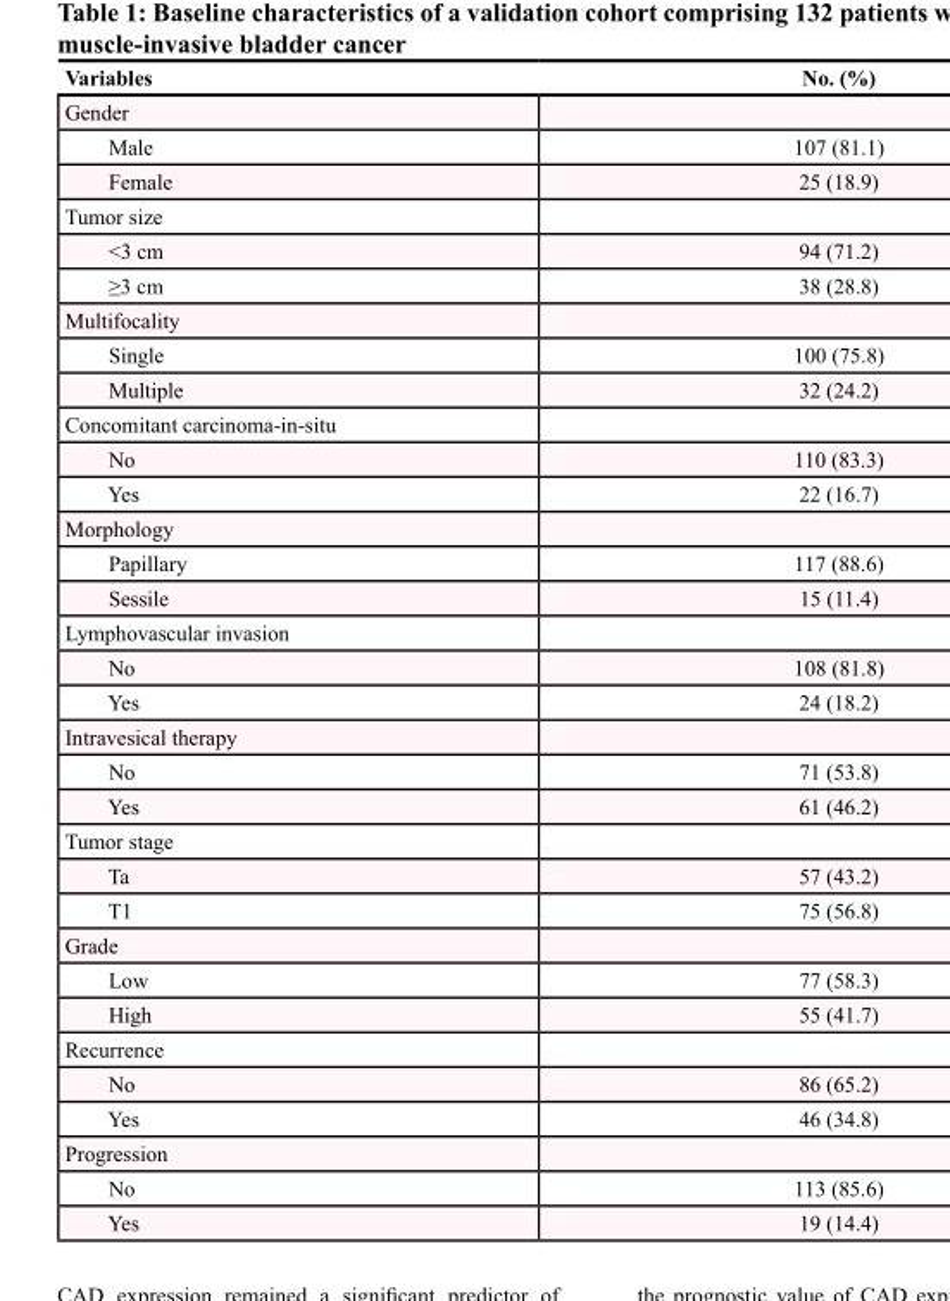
<table><thead><tr><td>Variables</td><td>No. (%)</td></tr></thead><tbody><tr><td colspan="2">Gender</td></tr><tr><td>Male</td><td>107 (81.1)</td></tr><tr><td>Female</td><td>25 (18.9)</td></tr><tr><td colspan="2">Tumor size</td></tr><tr><td>&lt;3 cm</td><td>94 (71.2)</td></tr><tr><td>≥3 cm</td><td>38 (28.8)</td></tr><tr><td colspan="2">Multifocality</td></tr><tr><td>Single</td><td>100 (75.8)</td></tr><tr><td>Multiple</td><td>32 (24.2)</td></tr><tr><td colspan="2">Concomitant carcinoma-in-situ</td></tr><tr><td>No</td><td>110 (83.3)</td></tr><tr><td>Yes</td><td>22 (16.7)</td></tr><tr><td colspan="2">Morphology</td></tr><tr><td>Papillary</td><td>117 (88.6)</td></tr><tr><td>Sessile</td><td>15 (11.4)</td></tr><tr><td colspan="2">Lymphovascular invasion</td></tr><tr><td>No</td><td>108 (81.8)</td></tr><tr><td>Yes</td><td>24 (18.2)</td></tr><tr><td colspan="2">Intravesical therapy</td></tr><tr><td>No</td><td>71 (53.8)</td></tr><tr><td>Yes</td><td>61 (46.2)</td></tr><tr><td colspan="2">Tumor stage</td></tr><tr><td>Ta</td><td>57 (43.2)</td></tr><tr><td>T1</td><td>75 (56.8)</td></tr><tr><td colspan="2">Grade</td></tr><tr><td>Low</td><td>77 (58.3)</td></tr><tr><td>High</td><td>55 (41.7)</td></tr><tr><td colspan="2">Recurrence</td></tr><tr><td>No</td><td>86 (65.2)</td></tr><tr><td>Yes</td><td>46 (34.8)</td></tr><tr><td colspan="2">Progression</td></tr><tr><td>No</td><td>113 (85.6)</td></tr><tr><td>Yes</td><td>19 (14.4)</td></tr></tbody></table>